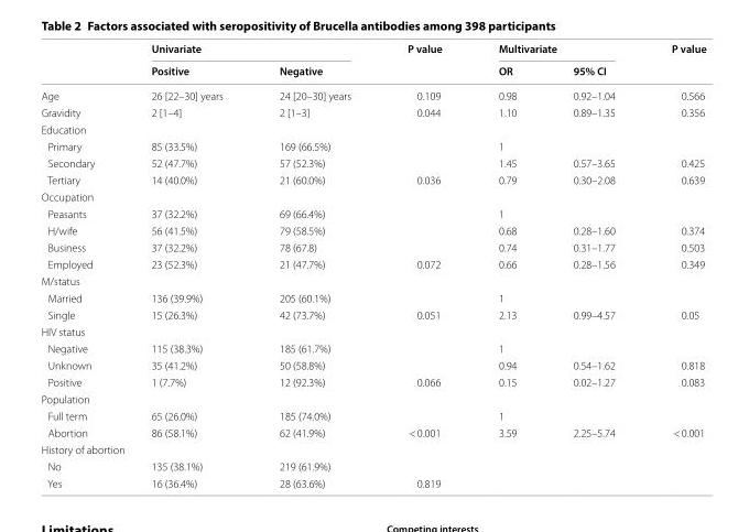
<table><thead><tr><td rowspan="2"></td><td colspan="2">Univariate</td><td rowspan="2">P value</td><td colspan="2">Multivariate</td><td rowspan="2">P value</td></tr><tr><td>Positive</td><td>Negative</td><td>OR</td><td>95% CI</td></tr></thead><tbody><tr><td>Age</td><td>26 [22–30] years</td><td>24 [20–30] years</td><td>0.109</td><td>0.98</td><td>0.92–1.04</td><td>0.566</td></tr><tr><td>Gravidity</td><td>2 [1–4]</td><td>2 [1–3]</td><td>0.044</td><td>1.10</td><td>0.89–1.35</td><td>0.356</td></tr><tr><td colspan="7">Education</td></tr><tr><td>Primary</td><td>85 (33.5%)</td><td>169 (66.5%)</td><td></td><td>1</td><td></td><td></td></tr><tr><td>Secondary</td><td>52 (47.7%)</td><td>57 (52.3%)</td><td></td><td>1.45</td><td>0.57–3.65</td><td>0.425</td></tr><tr><td>Tertiary</td><td>14 (40.0%)</td><td>21 (60.0%)</td><td>0.036</td><td>0.79</td><td>0.30–2.08</td><td>0.639</td></tr><tr><td colspan="7">Occupation</td></tr><tr><td>Peasants</td><td>37 (32.2%)</td><td>69 (66.4%)</td><td></td><td>1</td><td></td><td></td></tr><tr><td>H/wife</td><td>56 (41.5%)</td><td>79 (58.5%)</td><td></td><td>0.68</td><td>0.28–1.60</td><td>0.374</td></tr><tr><td>Business</td><td>37 (32.2%)</td><td>78 (67.8)</td><td></td><td>0.74</td><td>0.31–1.77</td><td>0.503</td></tr><tr><td>Employed</td><td>23 (52.3%)</td><td>21 (47.7%)</td><td>0.072</td><td>0.66</td><td>0.28–1.56</td><td>0.349</td></tr><tr><td colspan="7">M/status</td></tr><tr><td>Married</td><td>136 (39.9%)</td><td>205 (60.1%)</td><td></td><td>1</td><td></td><td></td></tr><tr><td>Single</td><td>15 (26.3%)</td><td>42 (73.7%)</td><td>0.051</td><td>2.13</td><td>0.99–4.57</td><td>0.05</td></tr><tr><td colspan="7">HIV status</td></tr><tr><td>Negative</td><td>115 (38.3%)</td><td>185 (61.7%)</td><td></td><td>1</td><td></td><td></td></tr><tr><td>Unknown</td><td>35 (41.2%)</td><td>50 (58.8%)</td><td></td><td>0.94</td><td>0.54–1.62</td><td>0.818</td></tr><tr><td>Positive</td><td>1 (7.7%)</td><td>12 (92.3%)</td><td>0.066</td><td>0.15</td><td>0.02–1.27</td><td>0.083</td></tr><tr><td colspan="7">Population</td></tr><tr><td>Full term</td><td>65 (26.0%)</td><td>185 (74.0%)</td><td></td><td>1</td><td></td><td></td></tr><tr><td>Abortion</td><td>86 (58.1%)</td><td>62 (41.9%)</td><td>&lt; 0.001</td><td>3.59</td><td>2.25–5.74</td><td>&lt; 0.001</td></tr><tr><td colspan="7">History of abortion</td></tr><tr><td>No</td><td>135 (38.1%)</td><td>219 (61.9%)</td><td></td><td></td><td></td><td></td></tr><tr><td>Yes</td><td>16 (36.4%)</td><td>28 (63.6%)</td><td>0.819</td><td></td><td></td><td></td></tr></tbody></table>